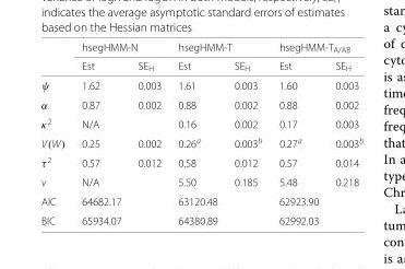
<table><thead><tr><td rowspan="2"></td><td colspan="2">hsegHMM-N</td><td colspan="2">hsegHMM-T</td><td colspan="2">hsegHMM-T<sub>A/AB</sub></td></tr><tr><td>Est</td><td>SE<sub>H</sub></td><td>Est</td><td>SE<sub>H</sub></td><td>Est</td><td>SE<sub>H</sub></td></tr></thead><tbody><tr><td>ψ</td><td>1.62</td><td>0.003</td><td>1.61</td><td>0.003</td><td>1.60</td><td>0.003</td></tr><tr><td>α</td><td>0.87</td><td>0.002</td><td>0.88</td><td>0.002</td><td>0.88</td><td>0.002</td></tr><tr><td>κ<sup>2</sup></td><td>N/A</td><td></td><td>0.16</td><td>0.002</td><td>0.17</td><td>0.003</td></tr><tr><td>V(W)</td><td>0.25</td><td>0.002</td><td>0.26<sup>a</sup></td><td>0.003<sup>b</sup></td><td>0.27<sup>a</sup></td><td>0.003<sup>b</sup></td></tr><tr><td>τ <sup>2</sup></td><td>0.57</td><td>0.012</td><td>0.58</td><td>0.012</td><td>0.57</td><td>0.014</td></tr><tr><td>v</td><td>N/A</td><td></td><td>5.50</td><td>0.185</td><td>5.48</td><td>0.218</td></tr><tr><td>AIC</td><td>64682.17</td><td></td><td>63120.48</td><td></td><td>62923.90</td><td></td></tr><tr><td>BIC</td><td>65934.07</td><td></td><td>64380.89</td><td></td><td>62992.03</td><td></td></tr></tbody></table>